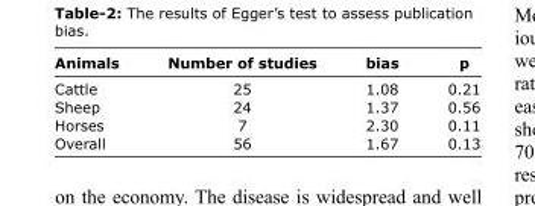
<table><thead><tr><td>Animals</td><td>Number of studies</td><td>bias</td><td>p</td></tr></thead><tbody><tr><td>Cattle</td><td>25</td><td>1.08</td><td>0.21</td></tr><tr><td>Sheep</td><td>24</td><td>1.37</td><td>0.56</td></tr><tr><td>Horses</td><td>7</td><td>2.30</td><td>0.11</td></tr><tr><td>Overall</td><td>56</td><td>1.67</td><td>0.13</td></tr></tbody></table>